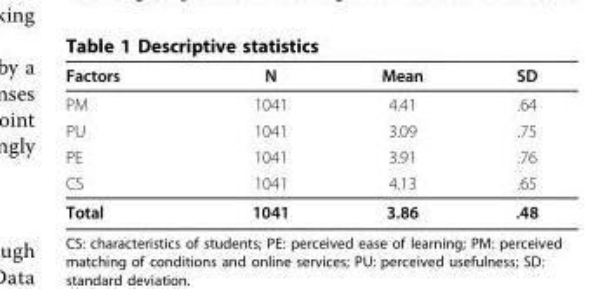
<table><thead><tr><td>Factors</td><td>N</td><td>Mean</td><td>SD</td></tr></thead><tbody><tr><td>PM</td><td>1041</td><td>4.41</td><td>.64</td></tr><tr><td>PU</td><td>1041</td><td>3.09</td><td>.75</td></tr><tr><td>PE</td><td>1041</td><td>3.91</td><td>.76</td></tr><tr><td>CS</td><td>1041</td><td>4.13</td><td>.65</td></tr><tr><td>Total</td><td>1041</td><td>3.86</td><td>.48</td></tr></tbody></table>